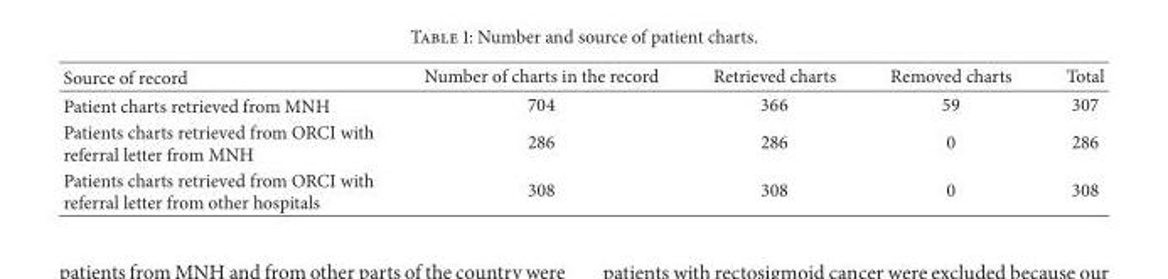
<table><thead><tr><td>Source of record</td><td>Number of charts in the record</td><td>Retrieved charts</td><td>Removed charts</td><td>Total</td></tr></thead><tbody><tr><td>Patient charts retrieved from MNH</td><td>704</td><td>366</td><td>59</td><td>307</td></tr><tr><td>Patients charts retrieved from ORCI with referral letter from MNH</td><td>286</td><td>286</td><td>0</td><td>286</td></tr><tr><td>Patients charts retrieved from ORCI with referral letter from other hospitals</td><td>308</td><td>308</td><td>0</td><td>308</td></tr></tbody></table>